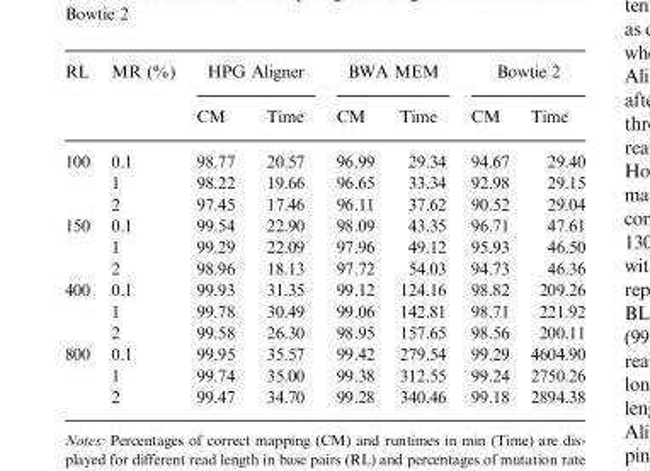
<table><thead><tr><td rowspan="2">RL</td><td rowspan="2">MR (%)</td><td colspan="2">HPG Aligner</td><td colspan="2">BWA MEM</td><td colspan="2">Bowtie 2</td></tr><tr><td>CM</td><td>Time</td><td>CM</td><td>Time</td><td>CM</td><td>Time</td></tr></thead><tbody><tr><td rowspan="3">100</td><td>0.1</td><td>98.77</td><td>20.57</td><td>96.99</td><td>29.34</td><td>94.67</td><td>29.40</td></tr><tr><td>1</td><td>98.22</td><td>19.66</td><td>96.65</td><td>33.34</td><td>92.98</td><td>29.15</td></tr><tr><td>2</td><td>97.45</td><td>17.46</td><td>96.11</td><td>37.62</td><td>90.52</td><td>29.04</td></tr><tr><td rowspan="3">150</td><td>0.1</td><td>99.54</td><td>22.90</td><td>98.09</td><td>43.35</td><td>96.71</td><td>47.61</td></tr><tr><td>1</td><td>99.29</td><td>22.09</td><td>97.96</td><td>49.12</td><td>95.93</td><td>46.50</td></tr><tr><td>2</td><td>98.96</td><td>18.13</td><td>97.72</td><td>54.03</td><td>94.73</td><td>46.36</td></tr><tr><td rowspan="3">400</td><td>0.1</td><td>99.93</td><td>31.35</td><td>99.12</td><td>124.16</td><td>98.82</td><td>209.26</td></tr><tr><td>1</td><td>99.78</td><td>30.49</td><td>99.06</td><td>142.81</td><td>98.71</td><td>221.92</td></tr><tr><td>2</td><td>99.58</td><td>26.30</td><td>98.95</td><td>157.65</td><td>98.56</td><td>200.11</td></tr><tr><td rowspan="3">800</td><td>0.1</td><td>99.95</td><td>35.57</td><td>99.42</td><td>279.54</td><td>99.29</td><td>4604.90</td></tr><tr><td>1</td><td>99.74</td><td>35.00</td><td>99.38</td><td>312.55</td><td>99.24</td><td>2750.26</td></tr><tr><td>2</td><td>99.47</td><td>34.70</td><td>99.28</td><td>340.46</td><td>99.18</td><td>2894.38</td></tr></tbody></table>